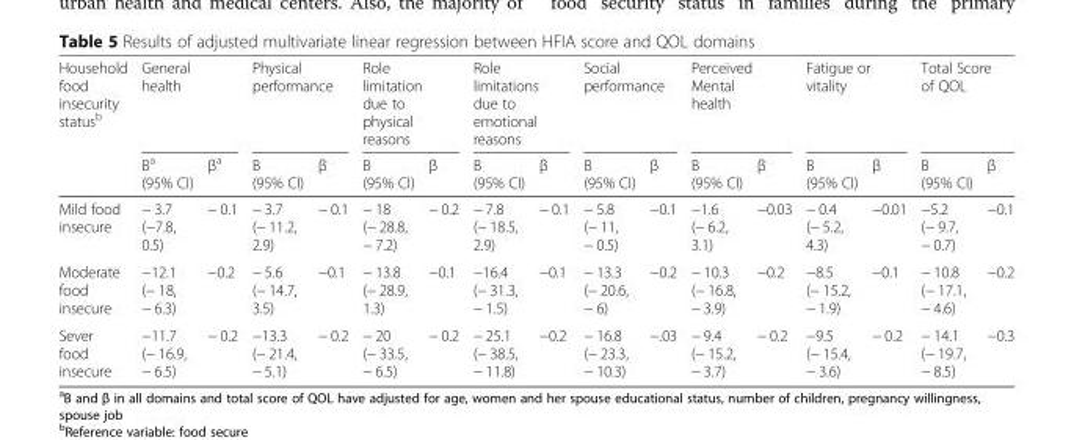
<table><thead><tr><td rowspan="2">Household food insecurity status<sup>b</sup></td><td colspan="2">General health</td><td colspan="2">Physical performance</td><td colspan="2">Role limitation due to physical reasons</td><td colspan="2">Role limitations due to emotional reasons</td><td colspan="2">Social performance</td><td colspan="2">Perceived Mental health</td><td colspan="2">Fatigue or vitality</td><td colspan="2">Total Score of QOL</td></tr><tr><td>B<sup>a</sup> (95% CI)</td><td>β<sup>a</sup></td><td>B (95% CI)</td><td>β</td><td>B (95% CI)</td><td>β</td><td>B (95% CI)</td><td>β</td><td>B (95% CI)</td><td>β</td><td>B (95% CI)</td><td>β</td><td>B (95% CI)</td><td>β</td><td>B (95% CI)</td><td>β</td></tr></thead><tbody><tr><td>Mild food insecure</td><td>− 3.7 (−7.8, 0.5)</td><td>− 0.1</td><td>− 3.7 (− 11.2, 2.9)</td><td>− 0.1</td><td>− 18 (− 28.8, − 7.2)</td><td>− 0.2</td><td>− 7.8 (− 18.5, 2.9)</td><td>− 0.1</td><td>− 5.8 (− 11, − 0.5)</td><td>−0.1</td><td>−1.6 (− 6.2, 3.1)</td><td>−0.03</td><td>− 0.4 (− 5.2, 4.3)</td><td>−0.01</td><td>−5.2 (− 9.7, − 0.7)</td><td>−0.1</td></tr><tr><td>Moderate food insecure</td><td>−12.1 (− 18, − 6.3)</td><td>−0.2</td><td>− 5.6 (− 14.7, 3.5)</td><td>−0.1</td><td>− 13.8 (− 28.9, 1.3)</td><td>−0.1</td><td>−16.4 (− 31.3, − 1.5)</td><td>−0.1</td><td>− 13.3 (− 20.6, − 6)</td><td>−0.2</td><td>− 10.3 (− 16.8, − 3.9)</td><td>−0.2</td><td>−8.5 (− 15.2, − 1.9)</td><td>−0.1</td><td>− 10.8 (− 17.1, − 4.6)</td><td>−0.2</td></tr><tr><td>Sever food insecure</td><td>−11.7 (− 16.9, − 6.5)</td><td>− 0.2</td><td>−13.3 (− 21.4, − 5.1)</td><td>− 0.2</td><td>− 20 (− 33.5, − 6.5)</td><td>− 0.2</td><td>− 25.1 (− 38.5, − 11.8)</td><td>−0.2</td><td>− 16.8 (− 23.3, − 10.3)</td><td>−.03</td><td>− 9.4 (− 15.2, − 3.7)</td><td>− 0.2</td><td>−9.5 (− 15.4, − 3.6)</td><td>− 0.2</td><td>− 14.1 (− 19.7, − 8.5)</td><td>−0.3</td></tr></tbody></table>